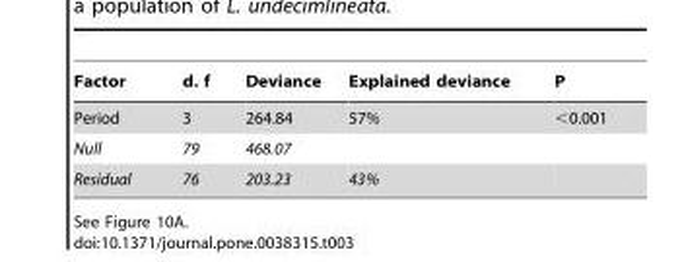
<table><thead><tr><td>Factor</td><td>d. f</td><td>Deviance</td><td>Explained deviance</td><td>P</td></tr></thead><tbody><tr><td>Period</td><td>3</td><td>264.84</td><td>57%</td><td>&lt;0.001</td></tr><tr><td>Null</td><td>79</td><td>468.07</td><td></td><td></td></tr><tr><td>Residual</td><td>76</td><td>203.23</td><td>43%</td><td></td></tr></tbody></table>